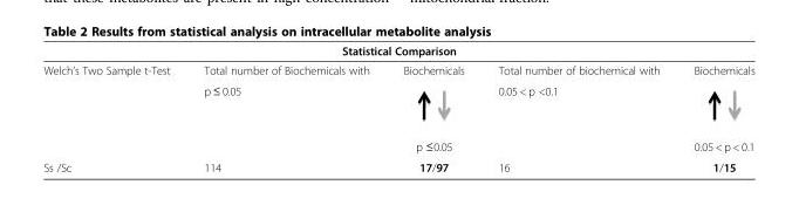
<table><thead><tr><td colspan="5">Statistical Comparison</td></tr><tr><td>Welch’s Two Sample t-Test</td><td>Total number of Biochemicals with</td><td>Biochemicals</td><td>Total number of biochemical with</td><td>Biochemicals</td></tr></thead><tbody><tr><td></td><td>p ≤ 0.05</td><td></td><td>0.05 &lt; p &lt;0.1</td><td></td></tr><tr><td></td><td></td><td>p ≤0.05</td><td></td><td>0.05 &lt; p &lt; 0.1</td></tr><tr><td>Ss /Sc</td><td>114</td><td>17/97</td><td>16</td><td>1/15</td></tr></tbody></table>